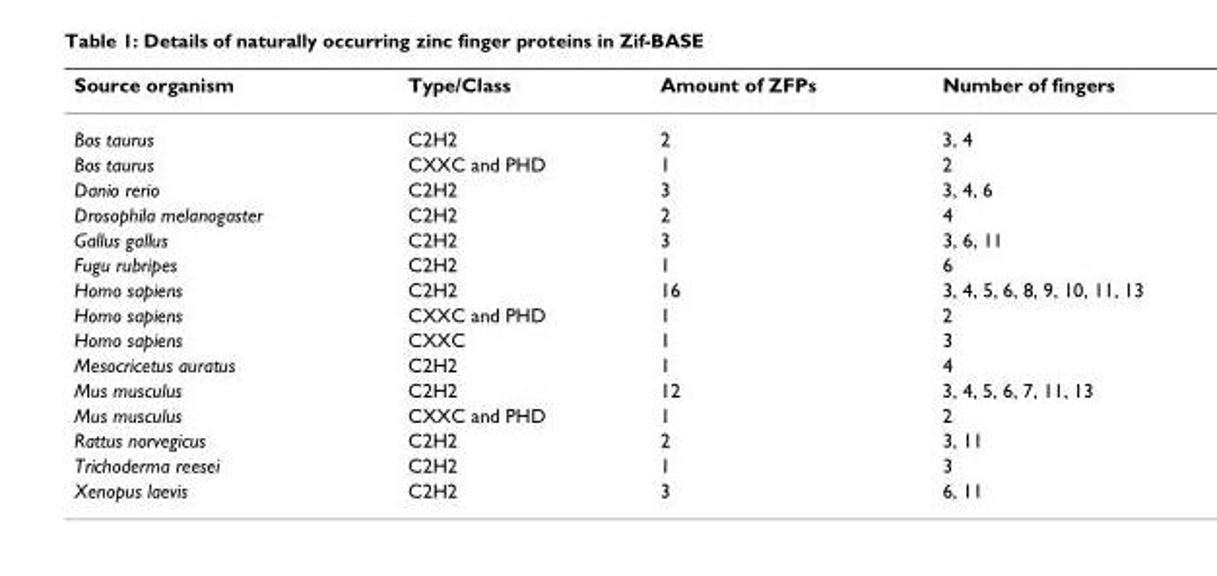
<table><thead><tr><td>Source organism</td><td>Type/Class</td><td>Amount of ZFPs</td><td>Number of fingers</td></tr></thead><tbody><tr><td>Bos taurus</td><td>C2H2</td><td>2</td><td>3, 4</td></tr><tr><td>Bos taurus</td><td>CXXC and PHD</td><td>1</td><td>2</td></tr><tr><td>Danio rerio</td><td>C2H2</td><td>3</td><td>3, 4, 6</td></tr><tr><td>Drosophila melanogaster</td><td>C2H2</td><td>2</td><td>4</td></tr><tr><td>Gallus gallus</td><td>C2H2</td><td>3</td><td>3, 6, 11</td></tr><tr><td>Fugu rubripes</td><td>C2H2</td><td>1</td><td>6</td></tr><tr><td>Homo sapiens</td><td>C2H2</td><td>16</td><td>3, 4, 5, 6, 8, 9, 10, 11, 13</td></tr><tr><td>Homo sapiens</td><td>CXXC and PHD</td><td>1</td><td>2</td></tr><tr><td>Homo sapiens</td><td>CXXC</td><td>1</td><td>3</td></tr><tr><td>Mesocricetus auratus</td><td>C2H2</td><td>1</td><td>4</td></tr><tr><td>Mus musculus</td><td>C2H2</td><td>12</td><td>3, 4, 5, 6, 7, 11, 13</td></tr><tr><td>Mus musculus</td><td>CXXC and PHD</td><td>1</td><td>2</td></tr><tr><td>Rattus norvegicus</td><td>C2H2</td><td>2</td><td>3, 11</td></tr><tr><td>Trichoderma reesei</td><td>C2H2</td><td>1</td><td>3</td></tr><tr><td>Xenopus laevis</td><td>C2H2</td><td>3</td><td>6, 11</td></tr></tbody></table>